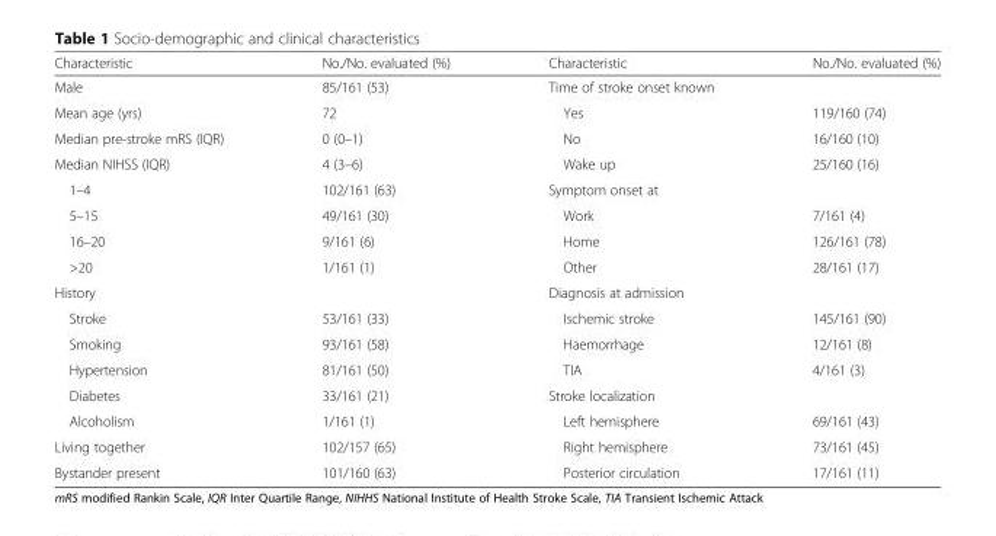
<table><thead><tr><td>Characteristic</td><td>No./No. evaluated (%)</td><td>Characteristic</td><td>No./No. evaluated (%)</td></tr></thead><tbody><tr><td>Male</td><td>85/161 (53)</td><td>Time of stroke onset known</td><td></td></tr><tr><td>Mean age (yrs)</td><td>72</td><td>Yes</td><td>119/160 (74)</td></tr><tr><td>Median pre-stroke mRS (IQR)</td><td>0 (0–1)</td><td>No</td><td>16/160 (10)</td></tr><tr><td>Median NIHSS (IQR)</td><td>4 (3–6)</td><td>Wake up</td><td>25/160 (16)</td></tr><tr><td>1–4</td><td>102/161 (63)</td><td>Symptom onset at</td><td></td></tr><tr><td>5–15</td><td>49/161 (30)</td><td>Work</td><td>7/161 (4)</td></tr><tr><td>16–20</td><td>9/161 (6)</td><td>Home</td><td>126/161 (78)</td></tr><tr><td>&gt;20</td><td>1/161 (1)</td><td>Other</td><td>28/161 (17)</td></tr><tr><td>History</td><td></td><td>Diagnosis at admission</td><td></td></tr><tr><td>Stroke</td><td>53/161 (33)</td><td>Ischemic stroke</td><td>145/161 (90)</td></tr><tr><td>Smoking</td><td>93/161 (58)</td><td>Haemorrhage</td><td>12/161 (8)</td></tr><tr><td>Hypertension</td><td>81/161 (50)</td><td>TIA</td><td>4/161 (3)</td></tr><tr><td>Diabetes</td><td>33/161 (21)</td><td>Stroke localization</td><td></td></tr><tr><td>Alcoholism</td><td>1/161 (1)</td><td>Left hemisphere</td><td>69/161 (43)</td></tr><tr><td>Living together</td><td>102/157 (65)</td><td>Right hemisphere</td><td>73/161 (45)</td></tr><tr><td>Bystander present</td><td>101/160 (63)</td><td>Posterior circulation</td><td>17/161 (11)</td></tr></tbody></table>